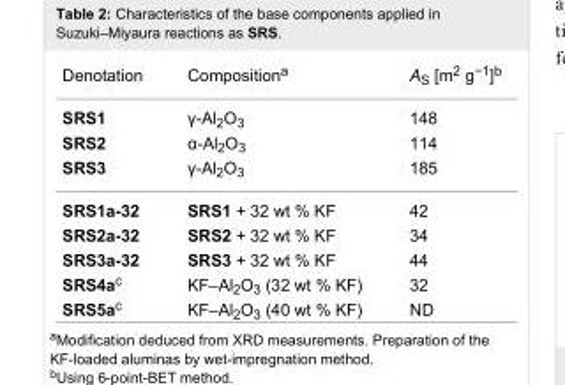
<table><tbody><tr><td>Denotation</td><td>Composition<sup>a</sup></td><td>A<sub>S</sub> [m<sup>2</sup> g<sup>−1</sup>]<sup>b</sup></td></tr><tr><td>SRS1</td><td>γ-Al<sub>2</sub>O<sub>3</sub></td><td>148</td></tr><tr><td>SRS2</td><td>α-Al<sub>2</sub>O<sub>3</sub></td><td>114</td></tr><tr><td>SRS3</td><td>γ-Al<sub>2</sub>O<sub>3</sub></td><td>185</td></tr><tr><td>SRS1a-32</td><td>SRS1 + 32 wt % KF</td><td>42</td></tr><tr><td>SRS2a-32</td><td>SRS2 + 32 wt % KF</td><td>34</td></tr><tr><td>SRS3a-32</td><td>SRS3 + 32 wt % KF</td><td>44</td></tr><tr><td>SRS4a<sup>c</sup></td><td>KF–Al<sub>2</sub>O<sub>3</sub> (32 wt % KF)</td><td>32</td></tr><tr><td>SRS5a<sup>c</sup></td><td>KF–Al<sub>2</sub>O<sub>3</sub> (40 wt % KF)</td><td>ND</td></tr></tbody></table>